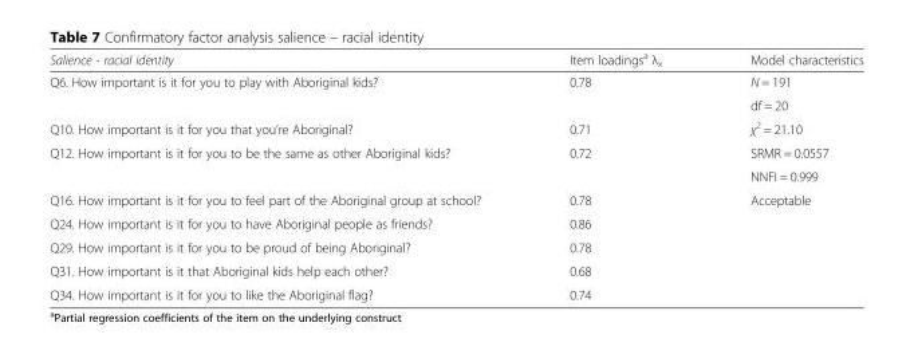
<table><thead><tr><td>Salience - racial identity</td><td>Item loadings<sup>a</sup> λ<sub>x</sub></td><td>Model characteristics</td></tr></thead><tbody><tr><td rowspan="2">Q6. How important is it for you to play with Aboriginal kids?</td><td rowspan="2">0.78</td><td>N = 191</td></tr><tr><td>df = 20</td></tr><tr><td>Q10. How important is it for you that you’re Aboriginal?</td><td>0.71</td><td>χ<sup>2</sup> = 21.10</td></tr><tr><td rowspan="2">Q12. How important is it for you to be the same as other Aboriginal kids?</td><td rowspan="2">0.72</td><td>SRMR = 0.0557</td></tr><tr><td>NNFI = 0.999</td></tr><tr><td>Q16. How important is it for you to feel part of the Aboriginal group at school?</td><td>0.78</td><td rowspan="5">Acceptable</td></tr><tr><td>Q24. How important is it for you to have Aboriginal people as friends?</td><td>0.86</td></tr><tr><td>Q29. How important is it for you to be proud of being Aboriginal?</td><td>0.78</td></tr><tr><td>Q31. How important is it that Aboriginal kids help each other?</td><td>0.68</td></tr><tr><td>Q34. How important is it for you to like the Aboriginal flag?</td><td>0.74</td></tr></tbody></table>